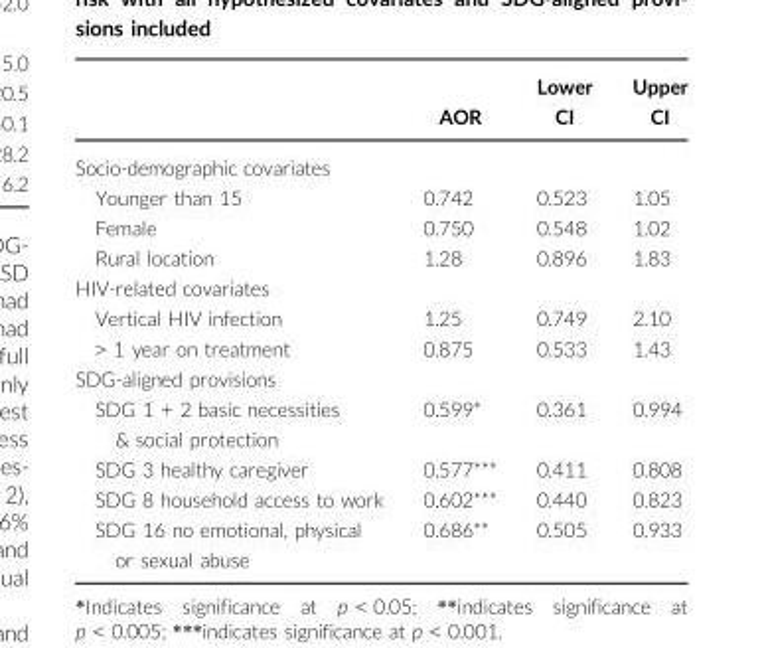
<table><thead><tr><td></td><td>AOR</td><td>Lower CI</td><td>Upper CI</td></tr></thead><tbody><tr><td colspan="4">Socio-demographic covariates</td></tr><tr><td>Younger than 15</td><td>0.742</td><td>0.523</td><td>1.05</td></tr><tr><td>Female</td><td>0.750</td><td>0.548</td><td>1.02</td></tr><tr><td>Rural location</td><td>1.28</td><td>0.896</td><td>1.83</td></tr><tr><td colspan="4">HIV-related covariates</td></tr><tr><td>Vertical HIV infection</td><td>1.25</td><td>0.749</td><td>2.10</td></tr><tr><td>&gt; 1 year on treatment</td><td>0.875</td><td>0.533</td><td>1.43</td></tr><tr><td colspan="4">SDG-aligned provisions</td></tr><tr><td>SDG 1 + 2 basic necessities &amp; social protection</td><td>0.599*</td><td>0.361</td><td>0.994</td></tr><tr><td>SDG 3 healthy caregiver</td><td>0.577***</td><td>0.411</td><td>0.808</td></tr><tr><td>SDG 8 household access to work</td><td>0.602***</td><td>0.440</td><td>0.823</td></tr><tr><td>SDG 16 no emotional, physical or sexual abuse</td><td>0.686**</td><td>0.505</td><td>0.933</td></tr></tbody></table>